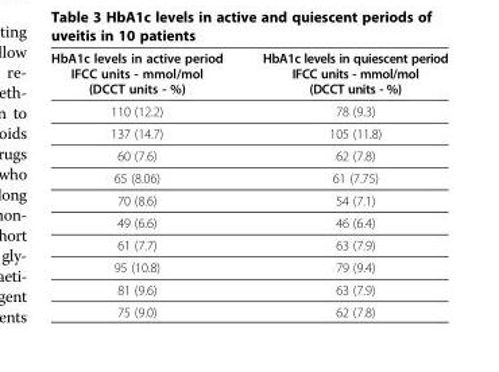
<table><thead><tr><td>HbA1c levels in active period IFCC units - mmol/mol (DCCT units - %)</td><td>HbA1c levels in quiescent period IFCC units - mmol/mol (DCCT units - %)</td></tr></thead><tbody><tr><td>110 (12.2)</td><td>78 (9.3)</td></tr><tr><td>137 (14.7)</td><td>105 (11.8)</td></tr><tr><td>60 (7.6)</td><td>62 (7.8)</td></tr><tr><td>65 (8.06)</td><td>61 (7.75)</td></tr><tr><td>70 (8.6)</td><td>54 (7.1)</td></tr><tr><td>49 (6.6)</td><td>46 (6.4)</td></tr><tr><td>61 (7.7)</td><td>63 (7.9)</td></tr><tr><td>95 (10.8)</td><td>79 (9.4)</td></tr><tr><td>81 (9.6)</td><td>63 (7.9)</td></tr><tr><td>75 (9.0)</td><td>62 (7.8)</td></tr></tbody></table>